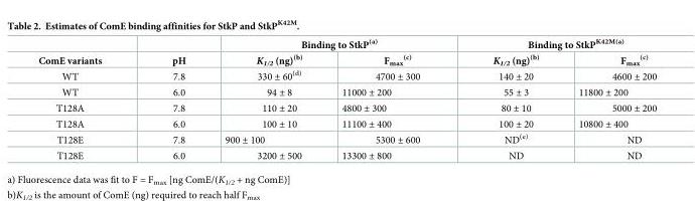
<table><thead><tr><td rowspan="2">ComE variants</td><td rowspan="2">pH</td><td colspan="2">Binding to StkP<sup>(a)</sup></td><td colspan="2">Binding to StkP<sup>K42M(a)</sup></td></tr><tr><td>K<sub>1/2</sub> (ng)<sup>(b)</sup></td><td>F<sub>max</sub> <sup>(c)</sup></td><td>K<sub>1/2</sub> (ng)<sup>(b)</sup></td><td>F<sub>max</sub> <sup>(c)</sup></td></tr></thead><tbody><tr><td>WT</td><td>7.8</td><td>330 ± 60<sup>(d)</sup></td><td>4700 ± 300</td><td>140 ± 20</td><td>4600 ± 200</td></tr><tr><td>WT</td><td>6.0</td><td>94 ± 8</td><td>11000 ± 200</td><td>55 ± 3</td><td>11800 ± 200</td></tr><tr><td>T128A</td><td>7.8</td><td>110 ± 20</td><td>4800 ± 300</td><td>80 ± 10</td><td>5000 ± 200</td></tr><tr><td>T128A</td><td>6.0</td><td>100 ± 10</td><td>11100 ± 400</td><td>100 ± 20</td><td>10800 ± 400</td></tr><tr><td>T128E</td><td>7.8</td><td>900 ± 100</td><td>5300 ± 600</td><td>ND<sup>(e)</sup></td><td>ND</td></tr><tr><td>T128E</td><td>6.0</td><td>3200 ± 500</td><td>13300 ± 800</td><td>ND</td><td>ND</td></tr></tbody></table>